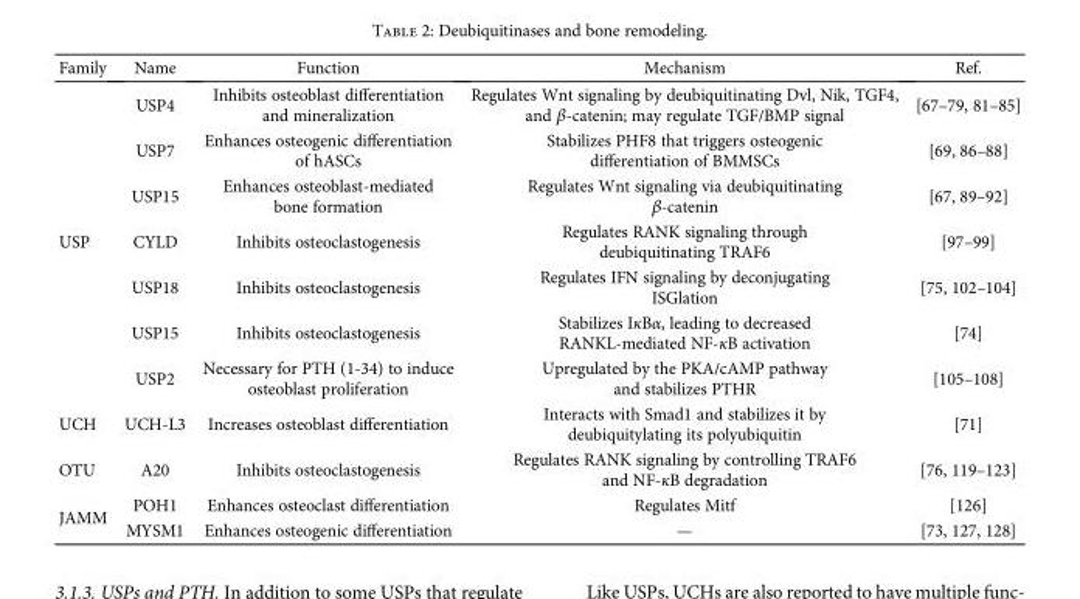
<table><thead><tr><td>Family</td><td>Name</td><td>Function</td><td>Mechanism</td><td>Ref.</td></tr></thead><tbody><tr><td rowspan="7">USP</td><td>USP4</td><td>Inhibits osteoblast differentiation and mineralization</td><td>Regulates Wnt signaling by deubiquitinating Dvl, Nik, TGF4, and β-catenin; may regulate TGF/BMP signal</td><td>[67–79, 81–85]</td></tr><tr><td>USP7</td><td>Enhances osteogenic differentiation of hASCs</td><td>Stabilizes PHF8 that triggers osteogenic differentiation of BMMSCs</td><td>[69, 86–88]</td></tr><tr><td>USP15</td><td>Enhances osteoblast-mediated bone formation</td><td>Regulates Wnt signaling via deubiquitinating β-catenin</td><td>[67, 89–92]</td></tr><tr><td>CYLD</td><td>Inhibits osteoclastogenesis</td><td>Regulates RANK signaling through deubiquitinating TRAF6</td><td>[97–99]</td></tr><tr><td>USP18</td><td>Inhibits osteoclastogenesis</td><td>Regulates IFN signaling by deconjugating ISGlation</td><td>[75, 102–104]</td></tr><tr><td>USP15</td><td>Inhibits osteoclastogenesis</td><td>Stabilizes IκBα, leading to decreased RANKL-mediated NF-κB activation</td><td>[74]</td></tr><tr><td>USP2</td><td>Necessary for PTH (1-34) to induce osteoblast proliferation</td><td>Upregulated by the PKA/cAMP pathway and stabilizes PTHR</td><td>[105–108]</td></tr><tr><td>UCH</td><td>UCH-L3</td><td>Increases osteoblast differentiation</td><td>Interacts with Smad1 and stabilizes it by deubiquitylating its polyubiquitin</td><td>[71]</td></tr><tr><td>OTU</td><td>A20</td><td>Inhibits osteoclastogenesis</td><td>Regulates RANK signaling by controlling TRAF6 and NF-κB degradation</td><td>[76, 119–123]</td></tr><tr><td rowspan="2">JAMM</td><td>POH1</td><td>Enhances osteoclast differentiation</td><td>Regulates Mitf</td><td>[126]</td></tr><tr><td>MYSM1</td><td>Enhances osteogenic differentiation</td><td>—</td><td>[73, 127, 128]</td></tr></tbody></table>